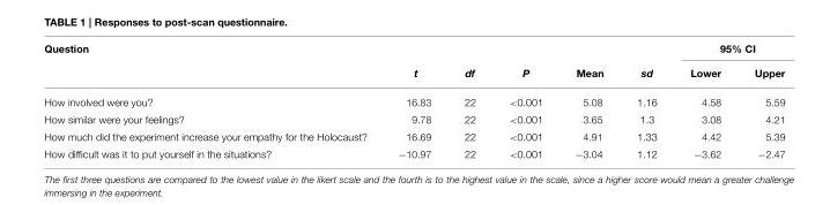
<table><thead><tr><td rowspan="2">Question</td><td rowspan="2">t</td><td rowspan="2">df</td><td rowspan="2">P</td><td rowspan="2">Mean</td><td rowspan="2">sd</td><td colspan="2">95% CI</td></tr><tr><td>Lower</td><td>Upper</td></tr></thead><tbody><tr><td>How involved were you?</td><td>16.83</td><td>22</td><td>&lt;0.001</td><td>5.08</td><td>1.16</td><td>4.58</td><td>5.59</td></tr><tr><td>How similar were your feelings?</td><td>9.78</td><td>22</td><td>&lt;0.001</td><td>3.65</td><td>1.3</td><td>3.08</td><td>4.21</td></tr><tr><td>How much did the experiment increase your empathy for the Holocaust?</td><td>16.69</td><td>22</td><td>&lt;0.001</td><td>4.91</td><td>1.33</td><td>4.42</td><td>5.39</td></tr><tr><td>How difficult was it to put yourself in the situations?</td><td>−10.97</td><td>22</td><td>&lt;0.001</td><td>−3.04</td><td>1.12</td><td>−3.62</td><td>−2.47</td></tr></tbody></table>